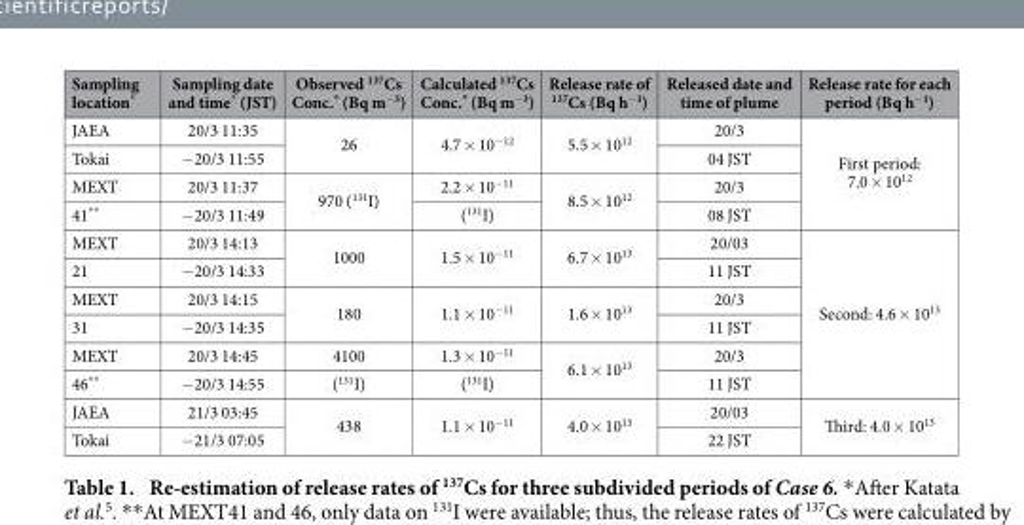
<table><thead><tr><td>Sampling location*</td><td>Sampling date and time* (JST)</td><td>Observed <sup>137</sup>Cs Conc.* (Bq m<sup>−3</sup>)</td><td>Calculated <sup>137</sup>Cs Conc.* (Bq m<sup>−3</sup>)</td><td>Release rate of <sup>137</sup>Cs (Bq h<sup>−1</sup>)</td><td>Released date and time of plume</td><td>Release rate for each period (Bq h<sup>−1</sup>)</td></tr></thead><tbody><tr><td>JAEA</td><td>20/3 11:35</td><td rowspan="2">26</td><td rowspan="2">4.7 × 10<sup>−12</sup></td><td rowspan="2">5.5 × 10<sup>12</sup></td><td>20/3</td><td rowspan="4">First period: 7.0 × 10<sup>12</sup></td></tr><tr><td>Tokai</td><td>− 20/3 11:55</td><td>04 JST</td></tr><tr><td>MEXT</td><td>20/3 11:37</td><td rowspan="2">970 (<sup>131</sup>I)</td><td>2.2 × 10<sup>−11</sup></td><td rowspan="2">8.5 × 10<sup>12</sup></td><td>20/3</td></tr><tr><td>41**</td><td>− 20/3 11:49</td><td>(<sup>131</sup>I)</td><td>08 JST</td></tr><tr><td>MEXT</td><td>20/3 14:13</td><td rowspan="2">1000</td><td rowspan="2">1.5 × 10<sup>−11</sup></td><td rowspan="2">6.7 × 10<sup>13</sup></td><td>20/03</td><td rowspan="6">Second: 4.6 × 10<sup>13</sup></td></tr><tr><td>21</td><td>− 20/3 14:33</td><td>11 JST</td></tr><tr><td>MEXT</td><td>20/3 14:15</td><td rowspan="2">180</td><td rowspan="2">1.1 × 10<sup>−11</sup></td><td rowspan="2">1.6 × 10<sup>13</sup></td><td>20/3</td></tr><tr><td>31</td><td>− 20/3 14:35</td><td>11 JST</td></tr><tr><td>MEXT</td><td>20/3 14:45</td><td>4100</td><td>1.3 × 10<sup>−11</sup></td><td rowspan="2">6.1 × 10<sup>13</sup></td><td>20/3</td></tr><tr><td>46**</td><td>− 20/3 14:55</td><td>(<sup>131</sup>I)</td><td>(<sup>131</sup>I)</td><td>11 JST</td></tr><tr><td>JAEA</td><td>21/3 03:45</td><td rowspan="2">438</td><td rowspan="2">1.1 × 10<sup>−11</sup></td><td rowspan="2">4.0 × 10<sup>13</sup></td><td>20/03</td><td rowspan="2">Third: 4.0 × 10<sup>13</sup></td></tr><tr><td>Tokai</td><td>− 21/3 07:05</td><td>22 JST</td></tr></tbody></table>